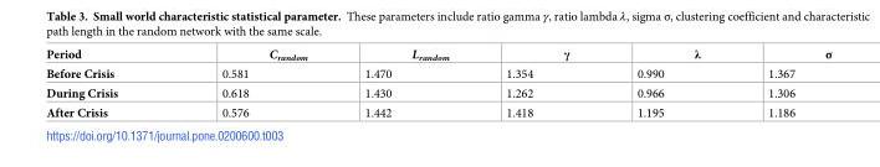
<table><thead><tr><td>Period</td><td>C<sub>random</sub></td><td>L<sub>random</sub></td><td>γ</td><td>λ</td><td>σ</td></tr></thead><tbody><tr><td>Before Crisis</td><td>0.581</td><td>1.470</td><td>1.354</td><td>0.990</td><td>1.367</td></tr><tr><td>During Crisis</td><td>0.618</td><td>1.430</td><td>1.262</td><td>0.966</td><td>1.306</td></tr><tr><td>After Crisis</td><td>0.576</td><td>1.442</td><td>1.418</td><td>1.195</td><td>1.186</td></tr></tbody></table>